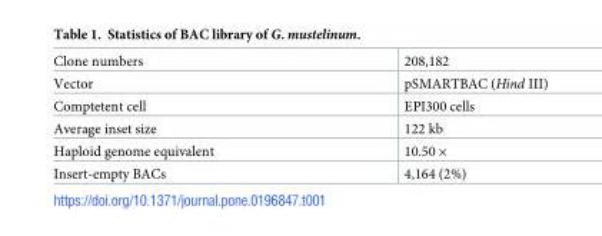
<table><tbody><tr><td>Clone numbers</td><td>208,182</td></tr><tr><td>Vector</td><td>pSMARTBAC (Hind III)</td></tr><tr><td>Comptetent cell</td><td>EPI300 cells</td></tr><tr><td>Average inset size</td><td>122 kb</td></tr><tr><td>Haploid genome equivalent</td><td>10.50 ×</td></tr><tr><td>Insert-empty BACs</td><td>4,164 (2%)</td></tr></tbody></table>